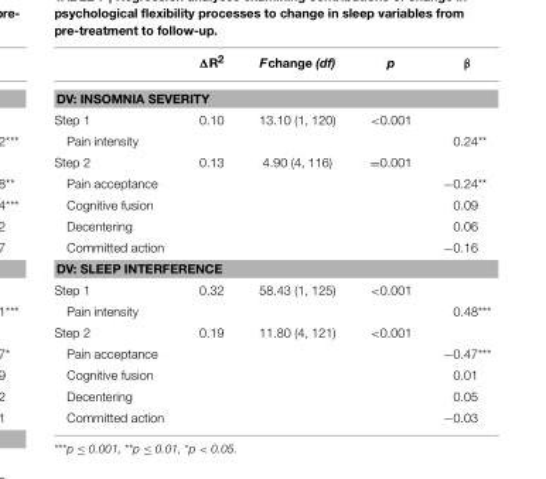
<table><thead><tr><td></td><td>ΔR<sup>2</sup></td><td>Fchange (df)</td><td>p</td><td>β</td></tr></thead><tbody><tr><td colspan="5">DV: INSOMNIA SEVERITY</td></tr><tr><td>Step 1</td><td>0.10</td><td>13.10 (1, 120)</td><td>&lt;0.001</td><td></td></tr><tr><td>Pain intensity</td><td></td><td></td><td></td><td>0.24**</td></tr><tr><td>Step 2</td><td>0.13</td><td>4.90 (4, 116)</td><td>=0.001</td><td></td></tr><tr><td>Pain acceptance</td><td></td><td></td><td></td><td>−0.24**</td></tr><tr><td>Cognitive fusion</td><td></td><td></td><td></td><td>0.09</td></tr><tr><td>Decentering</td><td></td><td></td><td></td><td>0.06</td></tr><tr><td>Committed action</td><td></td><td></td><td></td><td>−0.16</td></tr><tr><td colspan="5">DV: SLEEP INTERFERENCE</td></tr><tr><td>Step 1</td><td>0.32</td><td>58.43 (1, 125)</td><td>&lt;0.001</td><td></td></tr><tr><td>Pain intensity</td><td></td><td></td><td></td><td>0.48***</td></tr><tr><td>Step 2</td><td>0.19</td><td>11.80 (4, 121)</td><td>&lt;0.001</td><td></td></tr><tr><td>Pain acceptance</td><td></td><td></td><td></td><td>−0.47***</td></tr><tr><td>Cognitive fusion</td><td></td><td></td><td></td><td>0.01</td></tr><tr><td>Decentering</td><td></td><td></td><td></td><td>0.05</td></tr><tr><td>Committed action</td><td></td><td></td><td></td><td>−0.03</td></tr></tbody></table>